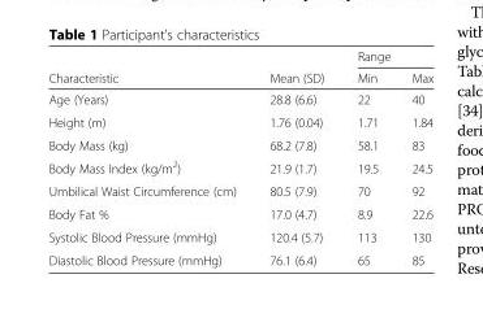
<table><thead><tr><td rowspan="2">Characteristic</td><td rowspan="2">Mean (SD)</td><td colspan="2">Range</td></tr><tr><td>Min</td><td>Max</td></tr></thead><tbody><tr><td>Age (Years)</td><td>28.8 (6.6)</td><td>22</td><td>40</td></tr><tr><td>Height (m)</td><td>1.76 (0.04)</td><td>1.71</td><td>1.84</td></tr><tr><td>Body Mass (kg)</td><td>68.2 (7.8)</td><td>58.1</td><td>83</td></tr><tr><td>Body Mass Index (kg/m<sup>2</sup>)</td><td>21.9 (1.7)</td><td>19.5</td><td>24.5</td></tr><tr><td>Umbilical Waist Circumference (cm)</td><td>80.5 (7.9)</td><td>70</td><td>92</td></tr><tr><td>Body Fat %</td><td>17.0 (4.7)</td><td>8.9</td><td>22.6</td></tr><tr><td>Systolic Blood Pressure (mmHg)</td><td>120.4 (5.7)</td><td>113</td><td>130</td></tr><tr><td>Diastolic Blood Pressure (mmHg)</td><td>76.1 (6.4)</td><td>65</td><td>85</td></tr></tbody></table>